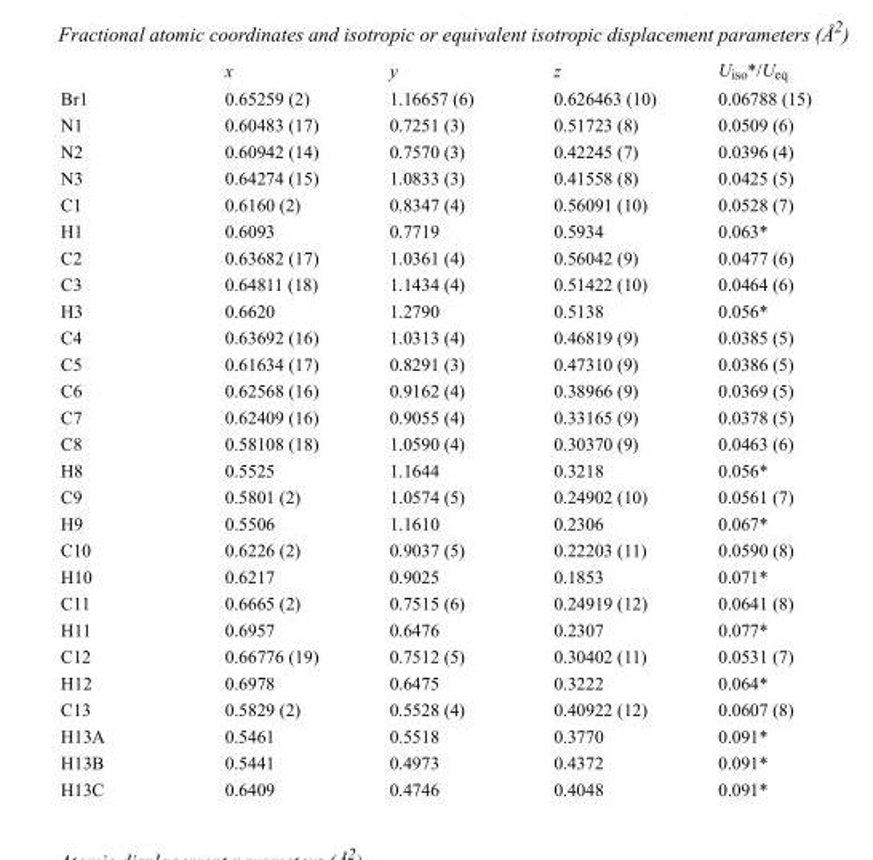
<table><thead><tr><td></td><td>x</td><td>y</td><td>z</td><td>U<sub>iso</sub>*/U<sub>eq</sub></td></tr></thead><tbody><tr><td>Br1</td><td>0.65259 (2)</td><td>1.16657 (6)</td><td>0.626463 (10)</td><td>0.06788 (15)</td></tr><tr><td>N1</td><td>0.60483 (17)</td><td>0.7251 (3)</td><td>0.51723 (8)</td><td>0.0509 (6)</td></tr><tr><td>N2</td><td>0.60942 (14)</td><td>0.7570 (3)</td><td>0.42245 (7)</td><td>0.0396 (4)</td></tr><tr><td>N3</td><td>0.64274 (15)</td><td>1.0833 (3)</td><td>0.41558 (8)</td><td>0.0425 (5)</td></tr><tr><td>C1</td><td>0.6160 (2)</td><td>0.8347 (4)</td><td>0.56091 (10)</td><td>0.0528 (7)</td></tr><tr><td>H1</td><td>0.6093</td><td>0.7719</td><td>0.5934</td><td>0.063*</td></tr><tr><td>C2</td><td>0.63682 (17)</td><td>1.0361 (4)</td><td>0.56042 (9)</td><td>0.0477 (6)</td></tr><tr><td>C3</td><td>0.64811 (18)</td><td>1.1434 (4)</td><td>0.51422 (10)</td><td>0.0464 (6)</td></tr><tr><td>H3</td><td>0.6620</td><td>1.2790</td><td>0.5138</td><td>0.056*</td></tr><tr><td>C4</td><td>0.63692 (16)</td><td>1.0313 (4)</td><td>0.46819 (9)</td><td>0.0385 (5)</td></tr><tr><td>C5</td><td>0.61634 (17)</td><td>0.8291 (3)</td><td>0.47310 (9)</td><td>0.0386 (5)</td></tr><tr><td>C6</td><td>0.62568 (16)</td><td>0.9162 (4)</td><td>0.38966 (9)</td><td>0.0369 (5)</td></tr><tr><td>C7</td><td>0.62409 (16)</td><td>0.9055 (4)</td><td>0.33165 (9)</td><td>0.0378 (5)</td></tr><tr><td>C8</td><td>0.58108 (18)</td><td>1.0590 (4)</td><td>0.30370 (9)</td><td>0.0463 (6)</td></tr><tr><td>H8</td><td>0.5525</td><td>1.1644</td><td>0.3218</td><td>0.056*</td></tr><tr><td>C9</td><td>0.5801 (2)</td><td>1.0574 (5)</td><td>0.24902 (10)</td><td>0.0561 (7)</td></tr><tr><td>H9</td><td>0.5506</td><td>1.1610</td><td>0.2306</td><td>0.067*</td></tr><tr><td>C10</td><td>0.6226 (2)</td><td>0.9037 (5)</td><td>0.22203 (11)</td><td>0.0590 (8)</td></tr><tr><td>H10</td><td>0.6217</td><td>0.9025</td><td>0.1853</td><td>0.071*</td></tr><tr><td>C11</td><td>0.6665 (2)</td><td>0.7515 (6)</td><td>0.24919 (12)</td><td>0.0641 (8)</td></tr><tr><td>H11</td><td>0.6957</td><td>0.6476</td><td>0.2307</td><td>0.077*</td></tr><tr><td>C12</td><td>0.66776 (19)</td><td>0.7512 (5)</td><td>0.30402 (11)</td><td>0.0531 (7)</td></tr><tr><td>H12</td><td>0.6978</td><td>0.6475</td><td>0.3222</td><td>0.064*</td></tr><tr><td>C13</td><td>0.5829 (2)</td><td>0.5528 (4)</td><td>0.40922 (12)</td><td>0.0607 (8)</td></tr><tr><td>H13A</td><td>0.5461</td><td>0.5518</td><td>0.3770</td><td>0.091*</td></tr><tr><td>H13B</td><td>0.5441</td><td>0.4973</td><td>0.4372</td><td>0.091*</td></tr><tr><td>H13C</td><td>0.6409</td><td>0.4746</td><td>0.4048</td><td>0.091*</td></tr></tbody></table>